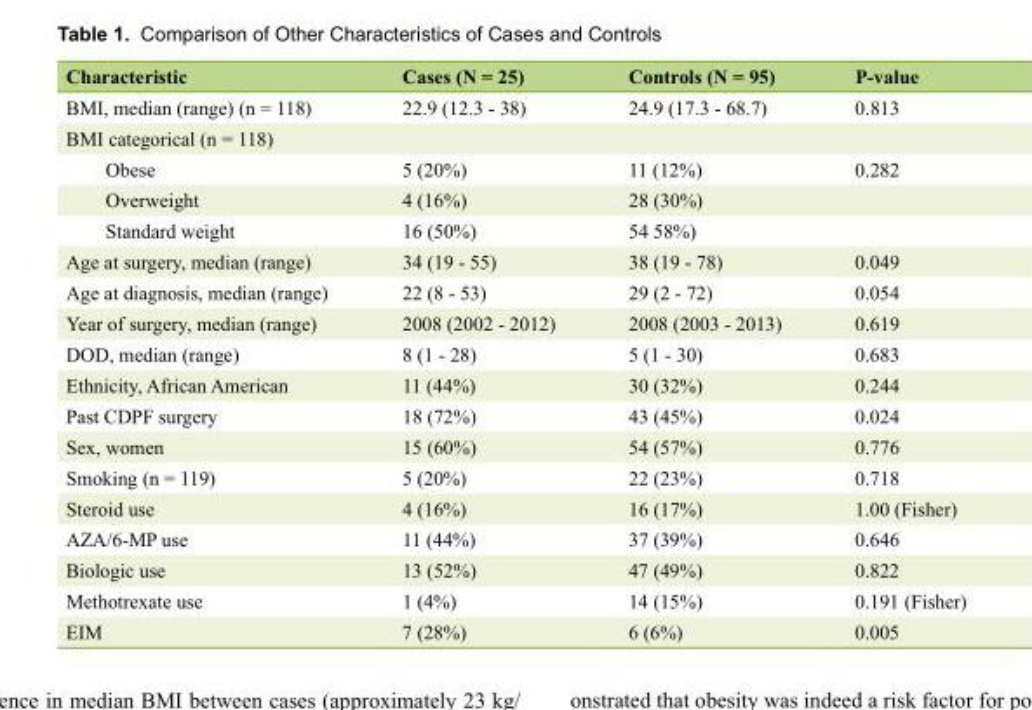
<table><thead><tr><td>Characteristic</td><td>Cases (N = 25)</td><td>Controls (N = 95)</td><td>P-value</td></tr></thead><tbody><tr><td>BMI, median (range) (n = 118)</td><td>22.9 (12.3 - 38)</td><td>24.9 (17.3 - 68.7)</td><td>0.813</td></tr><tr><td colspan="4">BMI categorical (n = 118)</td></tr><tr><td>Obese</td><td>5 (20%)</td><td>11 (12%)</td><td>0.282</td></tr><tr><td>Overweight</td><td>4 (16%)</td><td>28 (30%)</td><td></td></tr><tr><td>Standard weight</td><td>16 (50%)</td><td>54 58%)</td><td></td></tr><tr><td>Age at surgery, median (range)</td><td>34 (19 - 55)</td><td>38 (19 - 78)</td><td>0.049</td></tr><tr><td>Age at diagnosis, median (range)</td><td>22 (8 - 53)</td><td>29 (2 - 72)</td><td>0.054</td></tr><tr><td>Year of surgery, median (range)</td><td>2008 (2002 - 2012)</td><td>2008 (2003 - 2013)</td><td>0.619</td></tr><tr><td>DOD, median (range)</td><td>8 (1 - 28)</td><td>5 (1 - 30)</td><td>0.683</td></tr><tr><td>Ethnicity, African American</td><td>11 (44%)</td><td>30 (32%)</td><td>0.244</td></tr><tr><td>Past CDPF surgery</td><td>18 (72%)</td><td>43 (45%)</td><td>0.024</td></tr><tr><td>Sex, women</td><td>15 (60%)</td><td>54 (57%)</td><td>0.776</td></tr><tr><td>Smoking (n = 119)</td><td>5 (20%)</td><td>22 (23%)</td><td>0.718</td></tr><tr><td>Steroid use</td><td>4 (16%)</td><td>16 (17%)</td><td>1.00 (Fisher)</td></tr><tr><td>AZA/6-MP use</td><td>11 (44%)</td><td>37 (39%)</td><td>0.646</td></tr><tr><td>Biologic use</td><td>13 (52%)</td><td>47 (49%)</td><td>0.822</td></tr><tr><td>Methotrexate use</td><td>1 (4%)</td><td>14 (15%)</td><td>0.191 (Fisher)</td></tr><tr><td>EIM</td><td>7 (28%)</td><td>6 (6%)</td><td>0.005</td></tr></tbody></table>